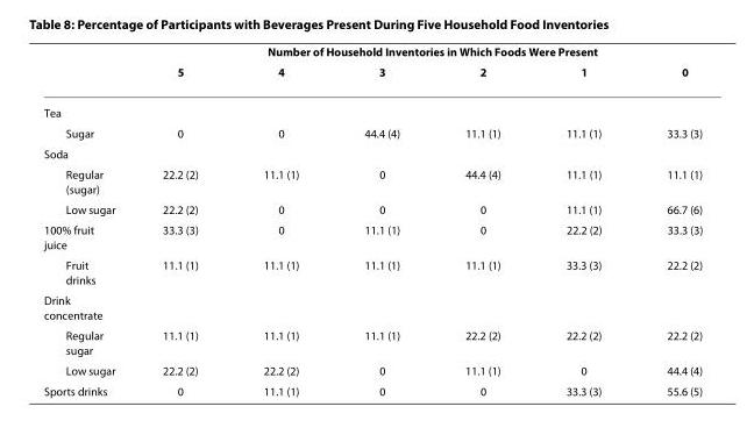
<table><thead><tr><td rowspan="2"></td><td colspan="6">Number of Household Inventories in Which Foods Were Present</td></tr><tr><td>5</td><td>4</td><td>3</td><td>2</td><td>1</td><td>0</td></tr></thead><tbody><tr><td colspan="7">Tea</td></tr><tr><td>Sugar</td><td>0</td><td>0</td><td>44.4 (4)</td><td>11.1 (1)</td><td>11.1 (1)</td><td>33.3 (3)</td></tr><tr><td colspan="7">Soda</td></tr><tr><td>Regular (sugar)</td><td>22.2 (2)</td><td>11.1 (1)</td><td>0</td><td>44.4 (4)</td><td>11.1 (1)</td><td>11.1 (1)</td></tr><tr><td>Low sugar</td><td>22.2 (2)</td><td>0</td><td>0</td><td>0</td><td>11.1 (1)</td><td>66.7 (6)</td></tr><tr><td>100% fruit juice</td><td>33.3 (3)</td><td>0</td><td>11.1 (1)</td><td>0</td><td>22.2 (2)</td><td>33.3 (3)</td></tr><tr><td>Fruit drinks</td><td>11.1 (1)</td><td>11.1 (1)</td><td>11.1 (1)</td><td>11.1 (1)</td><td>33.3 (3)</td><td>22.2 (2)</td></tr><tr><td colspan="7">Drink concentrate</td></tr><tr><td>Regular sugar</td><td>11.1 (1)</td><td>11.1 (1)</td><td>11.1 (1)</td><td>22.2 (2)</td><td>22.2 (2)</td><td>22.2 (2)</td></tr><tr><td>Low sugar</td><td>22.2 (2)</td><td>22.2 (2)</td><td>0</td><td>11.1 (1)</td><td>0</td><td>44.4 (4)</td></tr><tr><td>Sports drinks</td><td>0</td><td>11.1 (1)</td><td>0</td><td>0</td><td>33.3 (3)</td><td>55.6 (5)</td></tr></tbody></table>